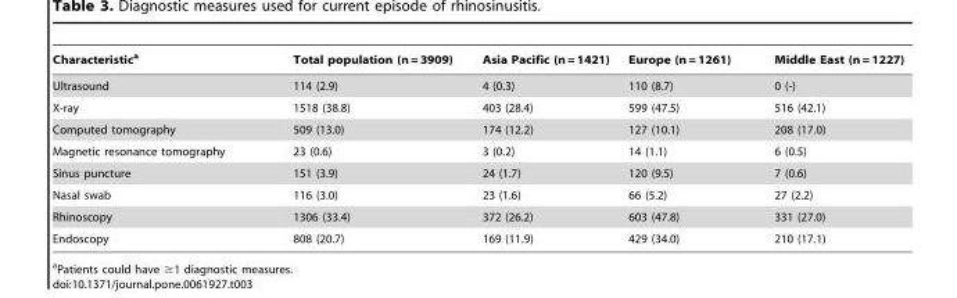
<table><thead><tr><td>Characteristic<sup>a</sup></td><td>Total population (n = 3909)</td><td>Asia Pacific (n = 1421)</td><td>Europe (n = 1261)</td><td>Middle East (n = 1227)</td></tr></thead><tbody><tr><td>Ultrasound</td><td>114 (2.9)</td><td>4 (0.3)</td><td>110 (8.7)</td><td>0 (-)</td></tr><tr><td>X-ray</td><td>1518 (38.8)</td><td>403 (28.4)</td><td>599 (47.5)</td><td>516 (42.1)</td></tr><tr><td>Computed tomography</td><td>509 (13.0)</td><td>174 (12.2)</td><td>127 (10.1)</td><td>208 (17.0)</td></tr><tr><td>Magnetic resonance tomography</td><td>23 (0.6)</td><td>3 (0.2)</td><td>14 (1.1)</td><td>6 (0.5)</td></tr><tr><td>Sinus puncture</td><td>151 (3.9)</td><td>24 (1.7)</td><td>120 (9.5)</td><td>7 (0.6)</td></tr><tr><td>Nasal swab</td><td>116 (3.0)</td><td>23 (1.6)</td><td>66 (5.2)</td><td>27 (2.2)</td></tr><tr><td>Rhinoscopy</td><td>1306 (33.4)</td><td>372 (26.2)</td><td>603 (47.8)</td><td>331 (27.0)</td></tr><tr><td>Endoscopy</td><td>808 (20.7)</td><td>169 (11.9)</td><td>429 (34.0)</td><td>210 (17.1)</td></tr></tbody></table>